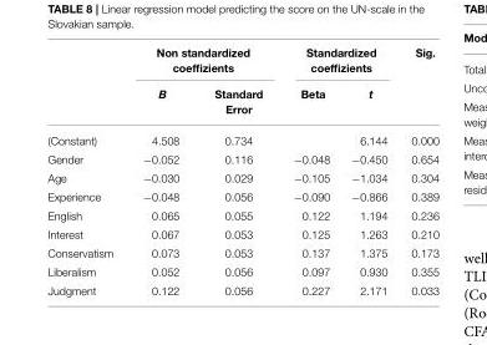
<table><thead><tr><td rowspan="2"></td><td colspan="2">Non standardized coeffizients</td><td colspan="2">Standardized coeffizients</td><td rowspan="2">Sig.</td></tr><tr><td>B</td><td>Standard Error</td><td>Beta</td><td>t</td></tr></thead><tbody><tr><td>(Constant)</td><td>4.508</td><td>0.734</td><td></td><td>6.144</td><td>0.000</td></tr><tr><td>Gender</td><td>−0.052</td><td>0.116</td><td>−0.048</td><td>−0.450</td><td>0.654</td></tr><tr><td>Age</td><td>−0.030</td><td>0.029</td><td>−0.105</td><td>−1.034</td><td>0.304</td></tr><tr><td>Experience</td><td>−0.048</td><td>0.056</td><td>−0.090</td><td>−0.866</td><td>0.389</td></tr><tr><td>English</td><td>0.065</td><td>0.055</td><td>0.122</td><td>1.194</td><td>0.236</td></tr><tr><td>Interest</td><td>0.067</td><td>0.053</td><td>0.125</td><td>1.263</td><td>0.210</td></tr><tr><td>Conservatism</td><td>0.073</td><td>0.053</td><td>0.137</td><td>1.375</td><td>0.173</td></tr><tr><td>Liberalism</td><td>0.052</td><td>0.056</td><td>0.097</td><td>0.930</td><td>0.355</td></tr><tr><td>Judgment</td><td>0.122</td><td>0.056</td><td>0.227</td><td>2.171</td><td>0.033</td></tr></tbody></table>